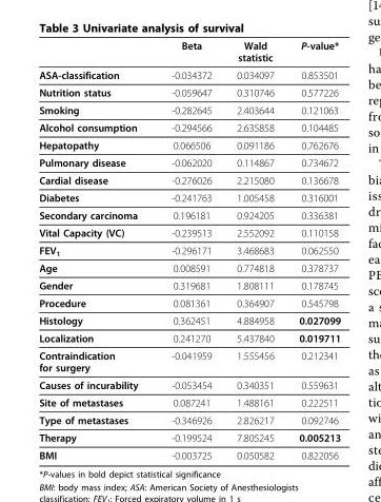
<table><thead><tr><td></td><td>Beta</td><td>Wald statistic</td><td>P-value*</td></tr></thead><tbody><tr><td>ASA-classification</td><td>-0.034372</td><td>0.034097</td><td>0.853501</td></tr><tr><td>Nutrition status</td><td>-0.059647</td><td>0.310746</td><td>0.577226</td></tr><tr><td>Smoking</td><td>-0.282645</td><td>2.403644</td><td>0.121063</td></tr><tr><td>Alcohol consumption</td><td>-0.294566</td><td>2.635858</td><td>0.104485</td></tr><tr><td>Hepatopathy</td><td>0.066506</td><td>0.091186</td><td>0.762676</td></tr><tr><td>Pulmonary disease</td><td>-0.062020</td><td>0.114867</td><td>0.734672</td></tr><tr><td>Cardial disease</td><td>-0.276026</td><td>2.215080</td><td>0.136678</td></tr><tr><td>Diabetes</td><td>-0.241763</td><td>1.005458</td><td>0.316001</td></tr><tr><td>Secondary carcinoma</td><td>0.196181</td><td>0.924205</td><td>0.336381</td></tr><tr><td>Vital Capacity (VC)</td><td>-0.239513</td><td>2.552092</td><td>0.110158</td></tr><tr><td>FEV1</td><td>-0.296171</td><td>3.468683</td><td>0.062550</td></tr><tr><td>Age</td><td>0.008591</td><td>0.774818</td><td>0.378737</td></tr><tr><td>Gender</td><td>0.319681</td><td>1.808111</td><td>0.178745</td></tr><tr><td>Procedure</td><td>0.081361</td><td>0.364907</td><td>0.545798</td></tr><tr><td>Histology</td><td>0.362451</td><td>4.884958</td><td>0.027099</td></tr><tr><td>Localization</td><td>0.241270</td><td>5.437840</td><td>0.019711</td></tr><tr><td>Contraindication for surgery</td><td>-0.041959</td><td>1.555456</td><td>0.212341</td></tr><tr><td>Causes of incurability</td><td>-0.053454</td><td>0.340351</td><td>0.559631</td></tr><tr><td>Site of metastases</td><td>0.087241</td><td>1.488161</td><td>0.222511</td></tr><tr><td>Type of metastases</td><td>-0.346926</td><td>2.826217</td><td>0.092746</td></tr><tr><td>Therapy</td><td>-0.199524</td><td>7.805245</td><td>0.005213</td></tr><tr><td>BMI</td><td>-0.003725</td><td>0.050582</td><td>0.822056</td></tr></tbody></table>